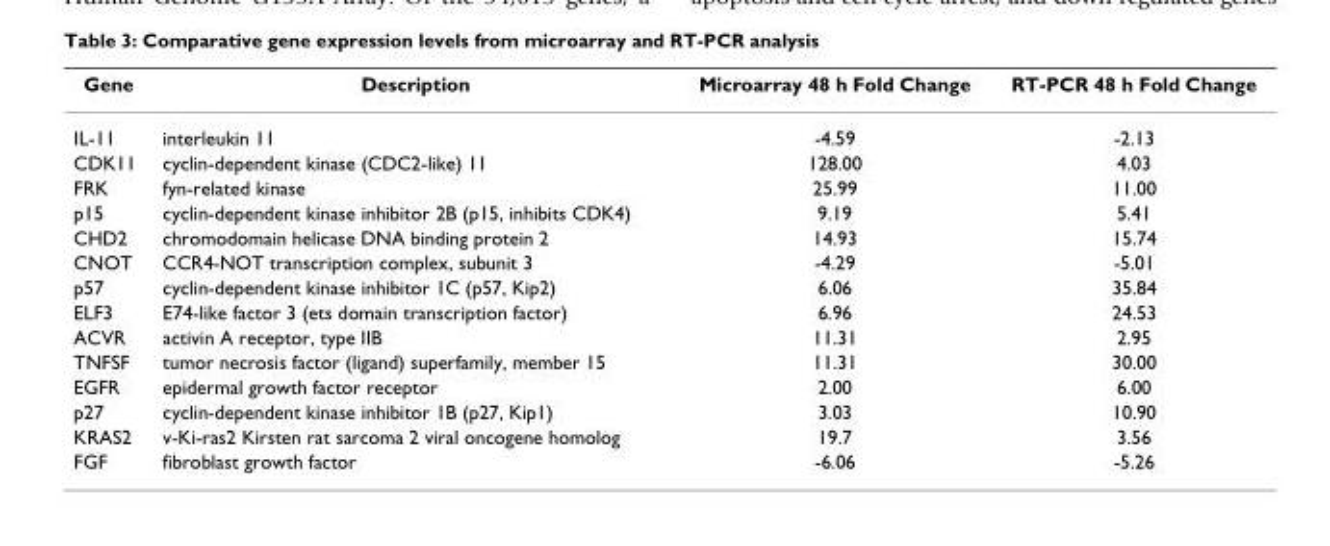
<table><thead><tr><td>Gene</td><td>Description</td><td>Microarray 48 h Fold Change</td><td>RT-PCR 48 h Fold Change</td></tr></thead><tbody><tr><td>IL-11</td><td>interleukin 11</td><td>-4.59</td><td>-2.13</td></tr><tr><td>CDK11</td><td>cyclin-dependent kinase (CDC2-like) 11</td><td>128.00</td><td>4.03</td></tr><tr><td>FRK</td><td>fyn-related kinase</td><td>25.99</td><td>11.00</td></tr><tr><td>p15</td><td>cyclin-dependent kinase inhibitor 2B (p15, inhibits CDK4)</td><td>9.19</td><td>5.41</td></tr><tr><td>CHD2</td><td>chromodomain helicase DNA binding protein 2</td><td>14.93</td><td>15.74</td></tr><tr><td>CNOT</td><td>CCR4-NOT transcription complex, subunit 3</td><td>-4.29</td><td>-5.01</td></tr><tr><td>p57</td><td>cyclin-dependent kinase inhibitor 1C (p57, Kip2)</td><td>6.06</td><td>35.84</td></tr><tr><td>ELF3</td><td>E74-like factor 3 (ets domain transcription factor)</td><td>6.96</td><td>24.53</td></tr><tr><td>ACVR</td><td>activin A receptor, type IIB</td><td>11.31</td><td>2.95</td></tr><tr><td>TNFSF</td><td>tumor necrosis factor (ligand) superfamily, member 15</td><td>11.31</td><td>30.00</td></tr><tr><td>EGFR</td><td>epidermal growth factor receptor</td><td>2.00</td><td>6.00</td></tr><tr><td>p27</td><td>cyclin-dependent kinase inhibitor 1B (p27, Kip1)</td><td>3.03</td><td>10.90</td></tr><tr><td>KRAS2</td><td>v-Ki-ras2 Kirsten rat sarcoma 2 viral oncogene homolog</td><td>19.7</td><td>3.56</td></tr><tr><td>FGF</td><td>fibroblast growth factor</td><td>-6.06</td><td>-5.26</td></tr></tbody></table>